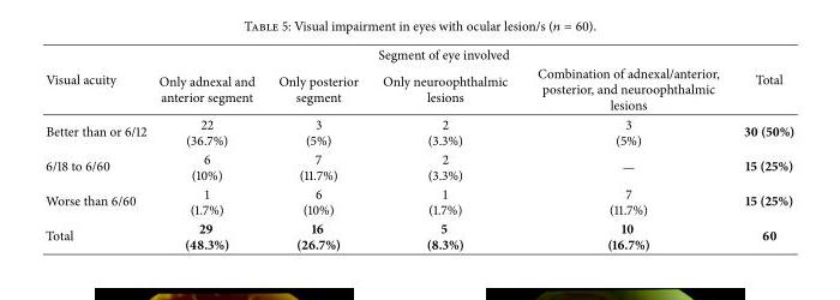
<table><thead><tr><td rowspan="2">Visual acuity</td><td colspan="4">Segment of eye involved</td><td rowspan="2">Total</td></tr><tr><td>Only adnexal and anterior segment</td><td>Only posterior segment</td><td>Only neuroophthalmic lesions</td><td>Combination of adnexal/anterior, posterior, and neuroophthalmic lesions</td></tr></thead><tbody><tr><td>Better than or 6/12</td><td>22 (36.7%)</td><td>3 (5%)</td><td>2 (3.3%)</td><td>3 (5%)</td><td>30 (50%)</td></tr><tr><td>6/18 to 6/60</td><td>6 (10%)</td><td>7 (11.7%)</td><td>2 (3.3%)</td><td>—</td><td>15 (25%)</td></tr><tr><td>Worse than 6/60</td><td>1 (1.7%)</td><td>6 (10%)</td><td>1 (1.7%)</td><td>7 (11.7%)</td><td>15 (25%)</td></tr><tr><td>Total</td><td>29 (48.3%)</td><td>16 (26.7%)</td><td>5 (8.3%)</td><td>10 (16.7%)</td><td>60</td></tr></tbody></table>